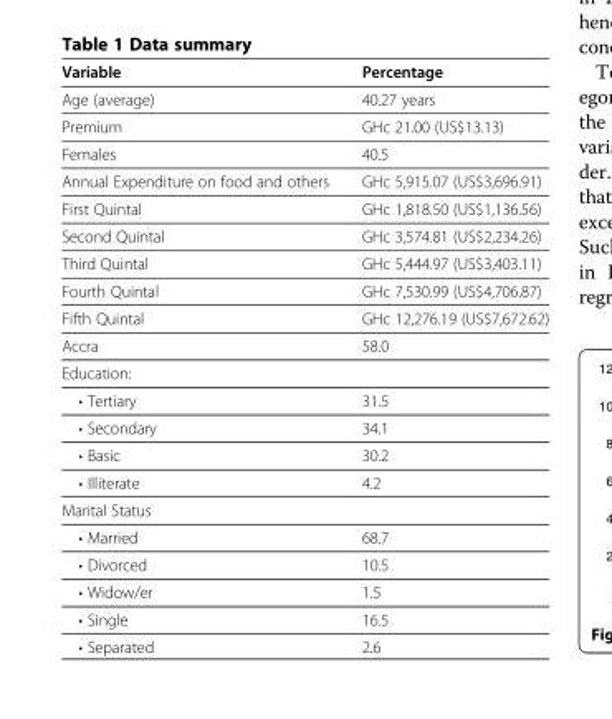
<table><thead><tr><td>Variable</td><td>Percentage</td></tr></thead><tbody><tr><td>Age (average)</td><td>40.27 years</td></tr><tr><td>Premium</td><td>GHc 21.00 (US$13.13)</td></tr><tr><td>Females</td><td>40.5</td></tr><tr><td>Annual Expenditure on food and others</td><td>GHc 5,915.07 (US$3,696.91)</td></tr><tr><td>First Quintal</td><td>GHc 1,818.50 (US$1,136.56)</td></tr><tr><td>Second Quintal</td><td>GHc 3,574.81 (US$2,234.26)</td></tr><tr><td>Third Quintal</td><td>GHc 5,444.97 (US$3,403.11)</td></tr><tr><td>Fourth Quintal</td><td>GHc 7,530.99 (US$4,706.87)</td></tr><tr><td>Fifth Quintal</td><td>GHc 12,276.19 (US$7,672.62)</td></tr><tr><td>Accra</td><td>58.0</td></tr><tr><td colspan="2">Education:</td></tr><tr><td>• Tertiary</td><td>31.5</td></tr><tr><td>• Secondary</td><td>34.1</td></tr><tr><td>• Basic</td><td>30.2</td></tr><tr><td>• Illiterate</td><td>4.2</td></tr><tr><td colspan="2">Marital Status</td></tr><tr><td>• Married</td><td>68.7</td></tr><tr><td>• Divorced</td><td>10.5</td></tr><tr><td>• Widow/er</td><td>1.5</td></tr><tr><td>• Single</td><td>16.5</td></tr><tr><td>• Separated</td><td>2.6</td></tr></tbody></table>